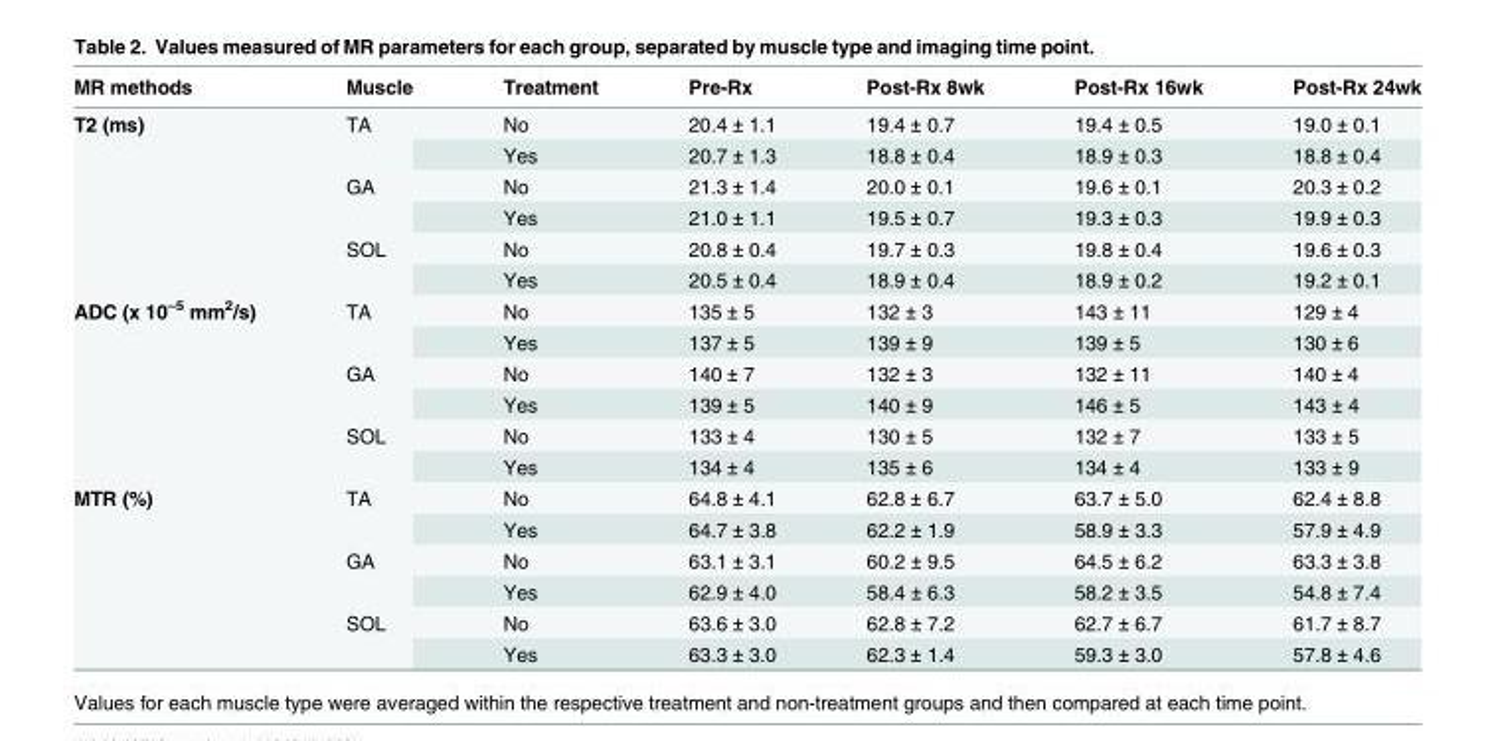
<table><thead><tr><td>MR methods</td><td>Muscle</td><td>Treatment</td><td>Pre-Rx</td><td>Post-Rx 8wk</td><td>Post-Rx 16wk</td><td>Post-Rx 24wk</td></tr></thead><tbody><tr><td rowspan="6">T2 (ms)</td><td rowspan="2">TA</td><td>No</td><td>20.4 ± 1.1</td><td>19.4 ± 0.7</td><td>19.4 ± 0.5</td><td>19.0 ± 0.1</td></tr><tr><td>Yes</td><td>20.7 ± 1.3</td><td>18.8 ± 0.4</td><td>18.9 ± 0.3</td><td>18.8 ± 0.4</td></tr><tr><td rowspan="2">GA</td><td>No</td><td>21.3 ± 1.4</td><td>20.0 ± 0.1</td><td>19.6 ± 0.1</td><td>20.3 ± 0.2</td></tr><tr><td>Yes</td><td>21.0 ± 1.1</td><td>19.5 ± 0.7</td><td>19.3 ± 0.3</td><td>19.9 ± 0.3</td></tr><tr><td rowspan="2">SOL</td><td>No</td><td>20.8 ± 0.4</td><td>19.7 ± 0.3</td><td>19.8 ± 0.4</td><td>19.6 ± 0.3</td></tr><tr><td>Yes</td><td>20.5 ± 0.4</td><td>18.9 ± 0.4</td><td>18.9 ± 0.2</td><td>19.2 ± 0.1</td></tr><tr><td rowspan="6">ADC (x 10<sup>–5</sup> mm<sup>2</sup>/s)</td><td rowspan="2">TA</td><td>No</td><td>135 ± 5</td><td>132 ± 3</td><td>143 ± 11</td><td>129 ± 4</td></tr><tr><td>Yes</td><td>137 ± 5</td><td>139 ± 9</td><td>139 ± 5</td><td>130 ± 6</td></tr><tr><td rowspan="2">GA</td><td>No</td><td>140 ± 7</td><td>132 ± 3</td><td>132 ± 11</td><td>140 ± 4</td></tr><tr><td>Yes</td><td>139 ± 5</td><td>140 ± 9</td><td>146 ± 5</td><td>143 ± 4</td></tr><tr><td rowspan="2">SOL</td><td>No</td><td>133 ± 4</td><td>130 ± 5</td><td>132 ± 7</td><td>133 ± 5</td></tr><tr><td>Yes</td><td>134 ± 4</td><td>135 ± 6</td><td>134 ± 4</td><td>133 ± 9</td></tr><tr><td rowspan="6">MTR (%)</td><td rowspan="2">TA</td><td>No</td><td>64.8 ± 4.1</td><td>62.8 ± 6.7</td><td>63.7 ± 5.0</td><td>62.4 ± 8.8</td></tr><tr><td>Yes</td><td>64.7 ± 3.8</td><td>62.2 ± 1.9</td><td>58.9 ± 3.3</td><td>57.9 ± 4.9</td></tr><tr><td rowspan="2">GA</td><td>No</td><td>63.1 ± 3.1</td><td>60.2 ± 9.5</td><td>64.5 ± 6.2</td><td>63.3 ± 3.8</td></tr><tr><td>Yes</td><td>62.9 ± 4.0</td><td>58.4 ± 6.3</td><td>58.2 ± 3.5</td><td>54.8 ± 7.4</td></tr><tr><td rowspan="2">SOL</td><td>No</td><td>63.6 ± 3.0</td><td>62.8 ± 7.2</td><td>62.7 ± 6.7</td><td>61.7 ± 8.7</td></tr><tr><td>Yes</td><td>63.3 ± 3.0</td><td>62.3 ± 1.4</td><td>59.3 ± 3.0</td><td>57.8 ± 4.6</td></tr></tbody></table>